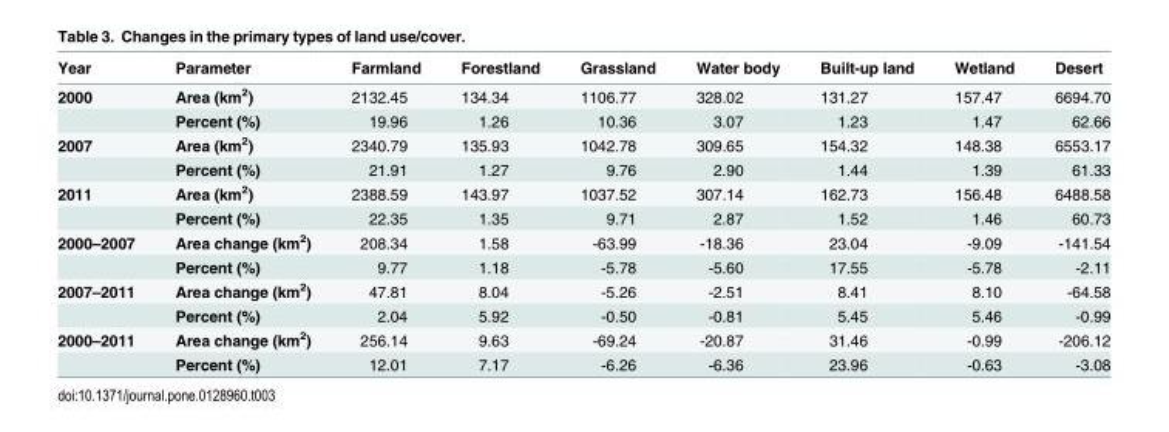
<table><thead><tr><td>Year</td><td>Parameter</td><td>Farmland</td><td>Forestland</td><td>Grassland</td><td>Water body</td><td>Built-up land</td><td>Wetland</td><td>Desert</td></tr></thead><tbody><tr><td rowspan="2">2000</td><td>Area (km<sup>2</sup>)</td><td>2132.45</td><td>134.34</td><td>1106.77</td><td>328.02</td><td>131.27</td><td>157.47</td><td>6694.70</td></tr><tr><td>Percent (%)</td><td>19.96</td><td>1.26</td><td>10.36</td><td>3.07</td><td>1.23</td><td>1.47</td><td>62.66</td></tr><tr><td rowspan="2">2007</td><td>Area (km<sup>2</sup>)</td><td>2340.79</td><td>135.93</td><td>1042.78</td><td>309.65</td><td>154.32</td><td>148.38</td><td>6553.17</td></tr><tr><td>Percent (%)</td><td>21.91</td><td>1.27</td><td>9.76</td><td>2.90</td><td>1.44</td><td>1.39</td><td>61.33</td></tr><tr><td rowspan="2">2011</td><td>Area (km<sup>2</sup>)</td><td>2388.59</td><td>143.97</td><td>1037.52</td><td>307.14</td><td>162.73</td><td>156.48</td><td>6488.58</td></tr><tr><td>Percent (%)</td><td>22.35</td><td>1.35</td><td>9.71</td><td>2.87</td><td>1.52</td><td>1.46</td><td>60.73</td></tr><tr><td rowspan="2">2000–2007</td><td>Area change (km<sup>2</sup>)</td><td>208.34</td><td>1.58</td><td>-63.99</td><td>-18.36</td><td>23.04</td><td>-9.09</td><td>-141.54</td></tr><tr><td>Percent (%)</td><td>9.77</td><td>1.18</td><td>-5.78</td><td>-5.60</td><td>17.55</td><td>-5.78</td><td>-2.11</td></tr><tr><td rowspan="2">2007–2011</td><td>Area change (km<sup>2</sup>)</td><td>47.81</td><td>8.04</td><td>-5.26</td><td>-2.51</td><td>8.41</td><td>8.10</td><td>-64.58</td></tr><tr><td>Percent (%)</td><td>2.04</td><td>5.92</td><td>-0.50</td><td>-0.81</td><td>5.45</td><td>5.46</td><td>-0.99</td></tr><tr><td rowspan="2">2000–2011</td><td>Area change (km<sup>2</sup>)</td><td>256.14</td><td>9.63</td><td>-69.24</td><td>-20.87</td><td>31.46</td><td>-0.99</td><td>-206.12</td></tr><tr><td>Percent (%)</td><td>12.01</td><td>7.17</td><td>-6.26</td><td>-6.36</td><td>23.96</td><td>-0.63</td><td>-3.08</td></tr></tbody></table>